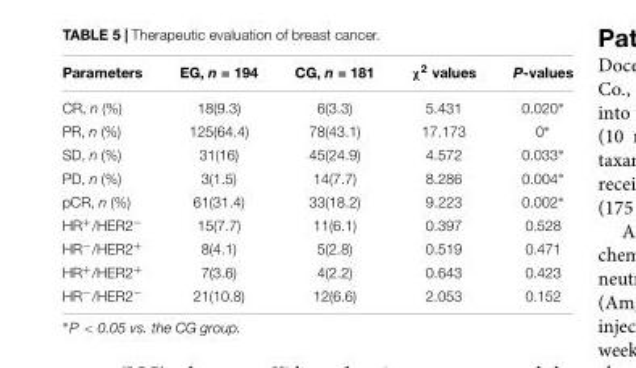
<table><thead><tr><td>Parameters</td><td>EG, n = 194</td><td>CG, n = 181</td><td>χ<sup>2</sup> values</td><td>P-values</td></tr></thead><tbody><tr><td>CR, n (%)</td><td>18(9.3)</td><td>6(3.3)</td><td>5.431</td><td>0.020∗</td></tr><tr><td>PR, n (%)</td><td>125(64.4)</td><td>78(43.1)</td><td>17.173</td><td>0∗</td></tr><tr><td>SD, n (%)</td><td>31(16)</td><td>45(24.9)</td><td>4.572</td><td>0.033∗</td></tr><tr><td>PD, n (%)</td><td>3(1.5)</td><td>14(7.7)</td><td>8.286</td><td>0.004∗</td></tr><tr><td>pCR, n (%)</td><td>61(31.4)</td><td>33(18.2)</td><td>9.223</td><td>0.002∗</td></tr><tr><td>HR<sup>+</sup>/HER2<sup>−</sup></td><td>15(7.7)</td><td>11(6.1)</td><td>0.397</td><td>0.528</td></tr><tr><td>HR<sup>−</sup>/HER2<sup>+</sup></td><td>8(4.1)</td><td>5(2.8)</td><td>0.519</td><td>0.471</td></tr><tr><td>HR<sup>+</sup>/HER2<sup>+</sup></td><td>7(3.6)</td><td>4(2.2)</td><td>0.643</td><td>0.423</td></tr><tr><td>HR<sup>−</sup>/HER2<sup>−</sup></td><td>21(10.8)</td><td>12(6.6)</td><td>2.053</td><td>0.152</td></tr></tbody></table>